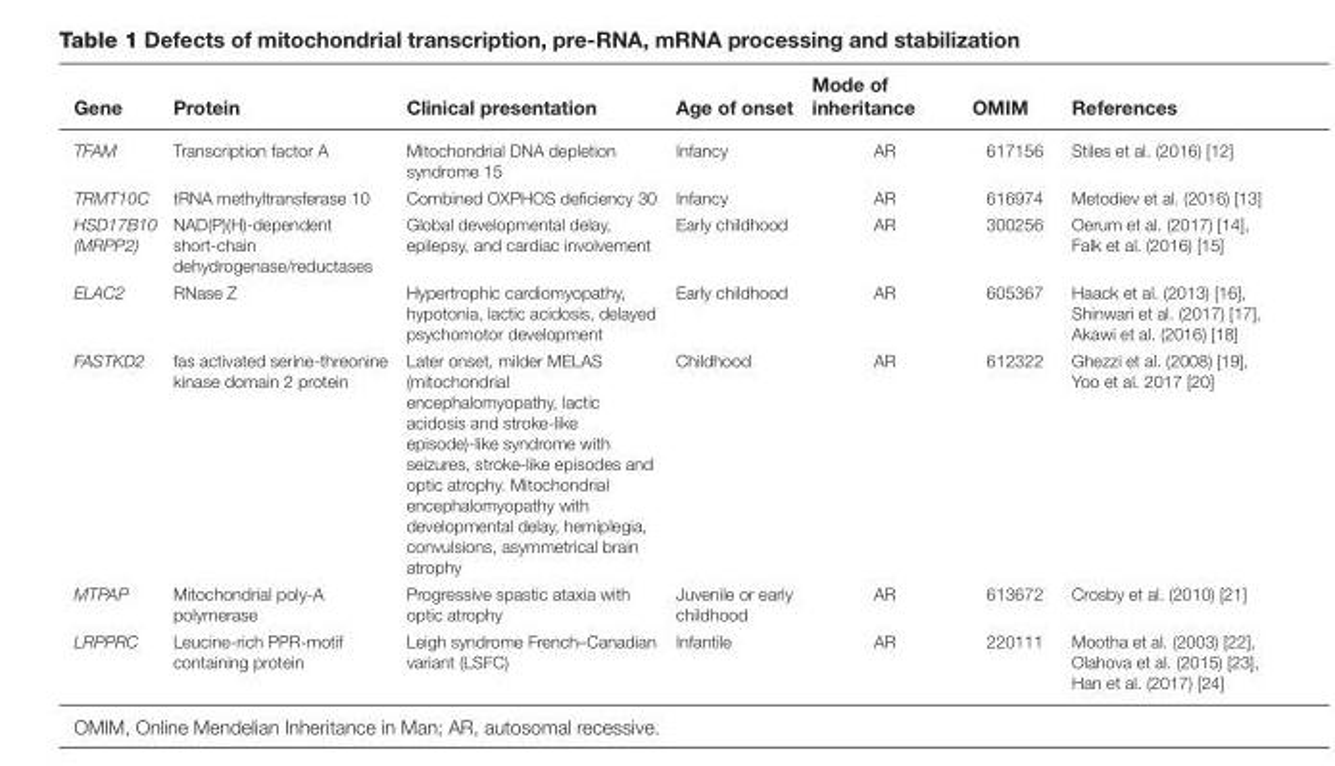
<table><thead><tr><td>Gene</td><td>Protein</td><td>Clinical presentation</td><td>Age of onset</td><td>Mode of inheritance</td><td>OMIM</td><td>References</td></tr></thead><tbody><tr><td>TFAM</td><td>Transcription factor A</td><td>Mitochondrial DNA depletion syndrome 15</td><td>Infancy</td><td>AR</td><td>617156</td><td>Stiles et al. (2016) [12]</td></tr><tr><td>TRMT10C</td><td>tRNA methyltransferase 10</td><td>Combined OXPHOS deficiency 30</td><td>Infancy</td><td>AR</td><td>616974</td><td>Metodiev et al. (2016) [13]</td></tr><tr><td>HSD17B10 (MRPP2)</td><td>NAD(P)(H)-dependent short-chain dehydrogenase/reductases</td><td>Global developmental delay, epilepsy, and cardiac involvement</td><td>Early childhood</td><td>AR</td><td>300256</td><td>Oerum et al. (2017) [14], Falk et al. (2016) [15]</td></tr><tr><td>ELAC2</td><td>RNase Z</td><td>Hypertrophic cardiomyopathy, hypotonia, lactic acidosis, delayed psychomotor development</td><td>Early childhood</td><td>AR</td><td>605367</td><td>Haack et al. (2013) [16], Shinwari et al. (2017) [17], Akawi et al. (2016) [18]</td></tr><tr><td>FASTKD2</td><td>fas activated serine-threonine kinase domain 2 protein</td><td>Later onset, milder MELAS (mitochondrial encephalomyopathy, lactic acidosis and stroke-like episode)-like syndrome with seizures, stroke-like episodes and optic atrophy. Mitochondrial encephalomyopathy with developmental delay, hemiplegia, convulsions, asymmetrical brain atrophy</td><td>Childhood</td><td>AR</td><td>612322</td><td>Ghezzi et al. (2008) [19], Yoo et al. 2017 [20]</td></tr><tr><td>MTPAP</td><td>Mitochondrial poly-A polymerase</td><td>Progressive spastic ataxia with optic atrophy</td><td>Juvenile or early childhood</td><td>AR</td><td>613672</td><td>Crosby et al. (2010) [21]</td></tr><tr><td>LRPPRC</td><td>Leucine-rich PPR-motif containing protein</td><td>Leigh syndrome French–Canadian variant (LSFC)</td><td>Infantile</td><td>AR</td><td>220111</td><td>Mootha et al. (2003) [22], Olahova et al. (2015) [23], Han et al. (2017) [24]</td></tr></tbody></table>